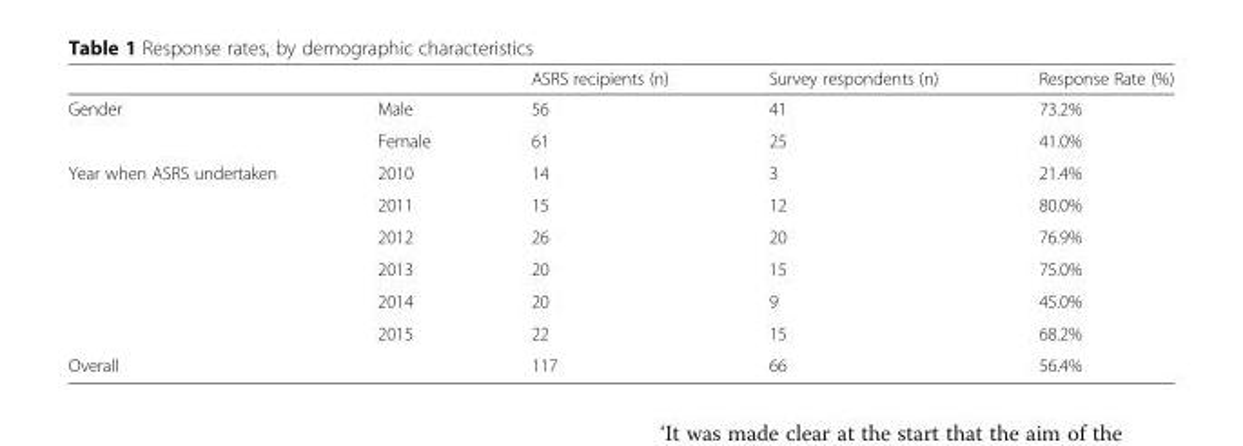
<table><thead><tr><td></td><td></td><td>ASRS recipients (n)</td><td>Survey respondents (n)</td><td>Response Rate (%)</td></tr></thead><tbody><tr><td rowspan="2">Gender</td><td>Male</td><td>56</td><td>41</td><td>73.2%</td></tr><tr><td>Female</td><td>61</td><td>25</td><td>41.0%</td></tr><tr><td rowspan="6">Year when ASRS undertaken</td><td>2010</td><td>14</td><td>3</td><td>21.4%</td></tr><tr><td>2011</td><td>15</td><td>12</td><td>80.0%</td></tr><tr><td>2012</td><td>26</td><td>20</td><td>76.9%</td></tr><tr><td>2013</td><td>20</td><td>15</td><td>75.0%</td></tr><tr><td>2014</td><td>20</td><td>9</td><td>45.0%</td></tr><tr><td>2015</td><td>22</td><td>15</td><td>68.2%</td></tr><tr><td>Overall</td><td></td><td>117</td><td>66</td><td>56.4%</td></tr></tbody></table>